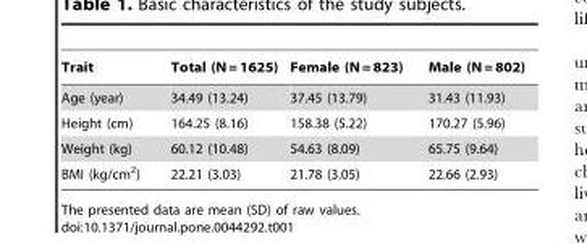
<table><thead><tr><td>Trait</td><td>Total (N = 1625)</td><td>Female (N = 823)</td><td>Male (N = 802)</td></tr></thead><tbody><tr><td>Age (year)</td><td>34.49 (13.24)</td><td>37.45 (13.79)</td><td>31.43 (11.93)</td></tr><tr><td>Height (cm)</td><td>164.25 (8.16)</td><td>158.38 (5.22)</td><td>170.27 (5.96)</td></tr><tr><td>Weight (kg)</td><td>60.12 (10.48)</td><td>54.63 (8.09)</td><td>65.75 (9.64)</td></tr><tr><td>BMI (kg/cm<sup>2</sup>)</td><td>22.21 (3.03)</td><td>21.78 (3.05)</td><td>22.66 (2.93)</td></tr></tbody></table>